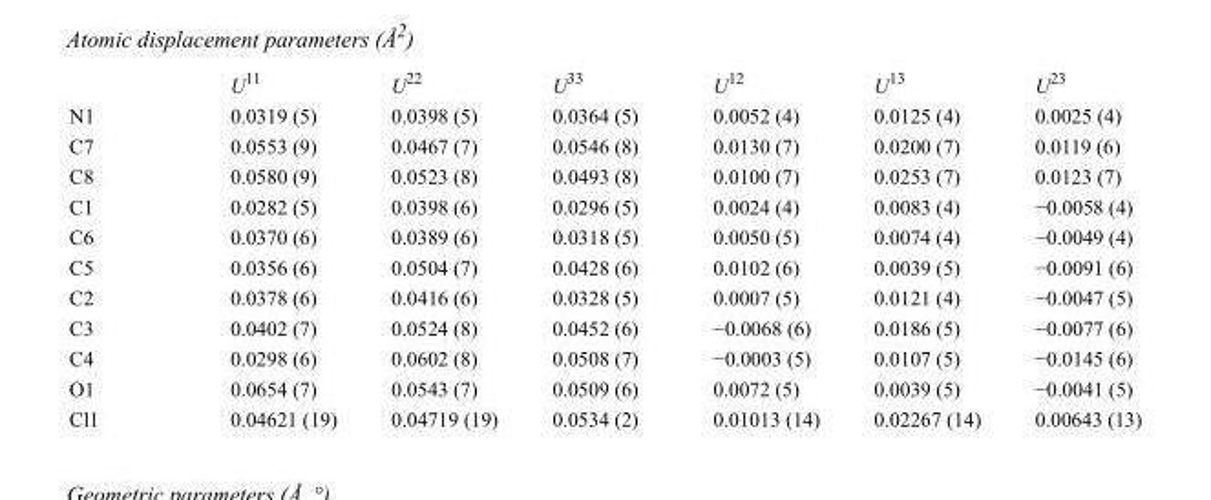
<table><thead><tr><td></td><td>U<sup>11</sup></td><td>U<sup>22</sup></td><td>U<sup>33</sup></td><td>U<sup>12</sup></td><td>U<sup>13</sup></td><td>U<sup>23</sup></td></tr></thead><tbody><tr><td>N1</td><td>0.0319 (5)</td><td>0.0398 (5)</td><td>0.0364 (5)</td><td>0.0052 (4)</td><td>0.0125 (4)</td><td>0.0025 (4)</td></tr><tr><td>C7</td><td>0.0553 (9)</td><td>0.0467 (7)</td><td>0.0546 (8)</td><td>0.0130 (7)</td><td>0.0200 (7)</td><td>0.0119 (6)</td></tr><tr><td>C8</td><td>0.0580 (9)</td><td>0.0523 (8)</td><td>0.0493 (8)</td><td>0.0100 (7)</td><td>0.0253 (7)</td><td>0.0123 (7)</td></tr><tr><td>C1</td><td>0.0282 (5)</td><td>0.0398 (6)</td><td>0.0296 (5)</td><td>0.0024 (4)</td><td>0.0083 (4)</td><td>−0.0058 (4)</td></tr><tr><td>C6</td><td>0.0370 (6)</td><td>0.0389 (6)</td><td>0.0318 (5)</td><td>0.0050 (5)</td><td>0.0074 (4)</td><td>−0.0049 (4)</td></tr><tr><td>C5</td><td>0.0356 (6)</td><td>0.0504 (7)</td><td>0.0428 (6)</td><td>0.0102 (6)</td><td>0.0039 (5)</td><td>−0.0091 (6)</td></tr><tr><td>C2</td><td>0.0378 (6)</td><td>0.0416 (6)</td><td>0.0328 (5)</td><td>0.0007 (5)</td><td>0.0121 (4)</td><td>−0.0047 (5)</td></tr><tr><td>C3</td><td>0.0402 (7)</td><td>0.0524 (8)</td><td>0.0452 (6)</td><td>−0.0068 (6)</td><td>0.0186 (5)</td><td>−0.0077 (6)</td></tr><tr><td>C4</td><td>0.0298 (6)</td><td>0.0602 (8)</td><td>0.0508 (7)</td><td>−0.0003 (5)</td><td>0.0107 (5)</td><td>−0.0145 (6)</td></tr><tr><td>O1</td><td>0.0654 (7)</td><td>0.0543 (7)</td><td>0.0509 (6)</td><td>0.0072 (5)</td><td>0.0039 (5)</td><td>−0.0041 (5)</td></tr><tr><td>Cl1</td><td>0.04621 (19)</td><td>0.04719 (19)</td><td>0.0534 (2)</td><td>0.01013 (14)</td><td>0.02267 (14)</td><td>0.00643 (13)</td></tr></tbody></table>